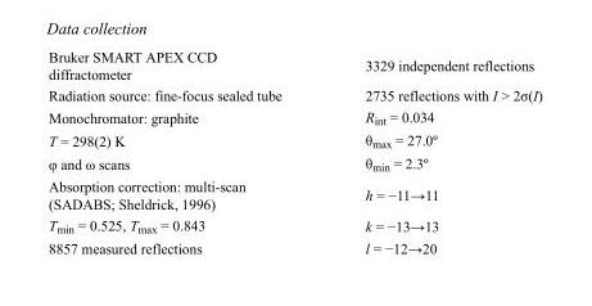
<table><tbody><tr><td>Bruker SMART APEX CCD diffractometer</td><td>3329 independent reflections</td></tr><tr><td>Radiation source: fine-focus sealed tube</td><td>2735 reflections with I &gt; 2σ(I)</td></tr><tr><td>Monochromator: graphite</td><td>R<sub>int</sub> = 0.034</td></tr><tr><td>T = 298(2) K</td><td>θ<sub>max</sub> = 27.0º</td></tr><tr><td>φ and ω scans</td><td>θ<sub>min</sub> = 2.3º</td></tr><tr><td>Absorption correction: multi-scan (SADABS; Sheldrick, 1996)</td><td>h = −11→11</td></tr><tr><td>T<sub>min</sub> = 0.525, T<sub>max</sub> = 0.843</td><td>k = −13→13</td></tr><tr><td>8857 measured reflections</td><td>l = −12→20</td></tr></tbody></table>